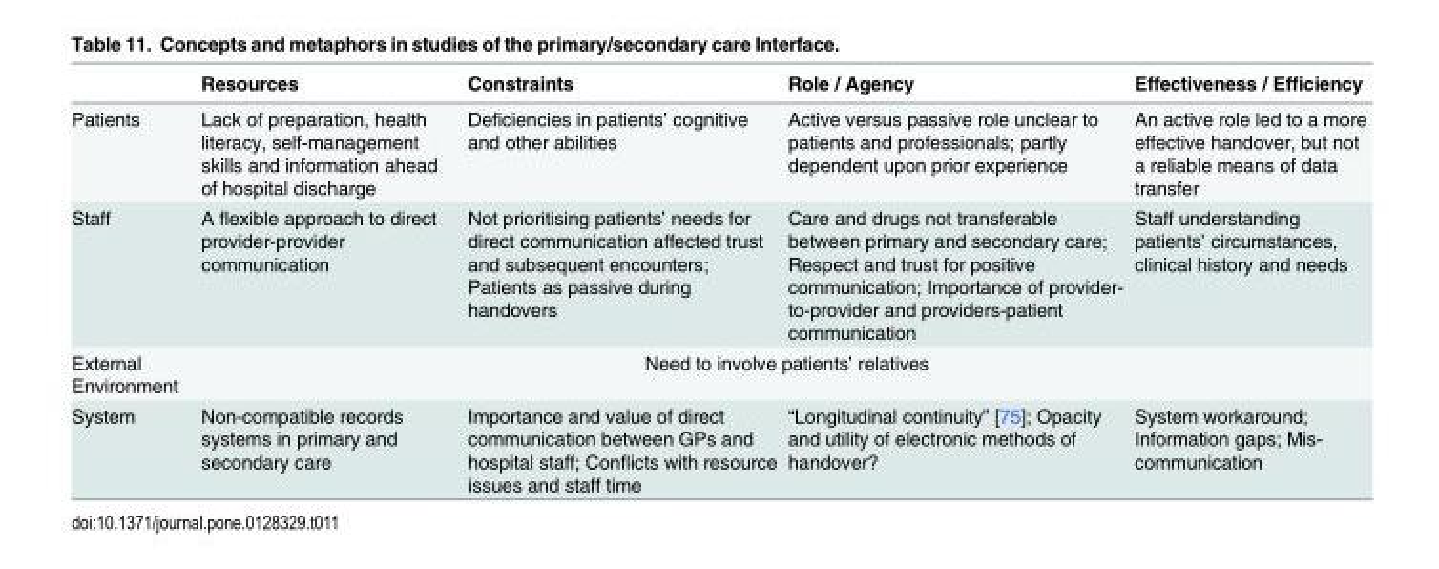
<table><thead><tr><td></td><td>Resources</td><td>Constraints</td><td>Role / Agency</td><td>Effectiveness / Efficiency</td></tr></thead><tbody><tr><td>Patients</td><td>Lack of preparation, health literacy, self-management skills and information ahead of hospital discharge</td><td>Deficiencies in patients’ cognitive and other abilities</td><td>Active versus passive role unclear to patients and professionals; partly dependent upon prior experience</td><td>An active role led to a more effective handover, but not a reliable means of data transfer</td></tr><tr><td>Staff</td><td>A flexible approach to direct provider-provider communication</td><td>Not prioritising patients’ needs for direct communication affected trust and subsequent encounters; Patients as passive during handovers</td><td>Care and drugs not transferable between primary and secondary care; Respect and trust for positive communication; Importance of provider- to-provider and providers-patient communication</td><td>Staff understanding patients’ circumstances, clinical history and needs</td></tr><tr><td>External Environment</td><td colspan="4">Need to involve patients’ relatives</td></tr><tr><td>System</td><td>Non-compatible records systems in primary and secondary care</td><td>Importance and value of direct communication between GPs and hospital staff; Conflicts with resource issues and staff time</td><td>“Longitudinal continuity” [75]; Opacity and utility of electronic methods of handover?</td><td>System workaround; Information gaps; Mis- communication</td></tr></tbody></table>